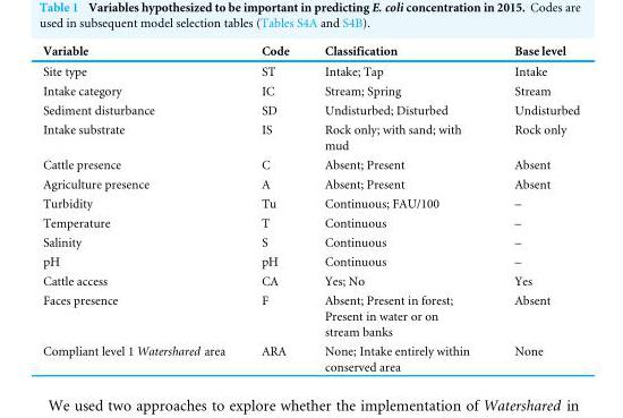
<table><thead><tr><td>Variable</td><td>Code</td><td>Classification</td><td>Base level</td></tr></thead><tbody><tr><td>Site type</td><td>ST</td><td>Intake; Tap</td><td>Intake</td></tr><tr><td>Intake category</td><td>IC</td><td>Stream; Spring</td><td>Stream</td></tr><tr><td>Sediment disturbance</td><td>SD</td><td>Undisturbed; Disturbed</td><td>Undisturbed</td></tr><tr><td>Intake substrate</td><td>IS</td><td>Rock only; with sand; with mud</td><td>Rock only</td></tr><tr><td>Cattle presence</td><td>C</td><td>Absent; Present</td><td>Absent</td></tr><tr><td>Agriculture presence</td><td>A</td><td>Absent; Present</td><td>Absent</td></tr><tr><td>Turbidity</td><td>Tu</td><td>Continuous; FAU/100</td><td>–</td></tr><tr><td>Temperature</td><td>T</td><td>Continuous</td><td>–</td></tr><tr><td>Salinity</td><td>S</td><td>Continuous</td><td>–</td></tr><tr><td>pH</td><td>pH</td><td>Continuous</td><td>–</td></tr><tr><td>Cattle access</td><td>CA</td><td>Yes; No</td><td>Yes</td></tr><tr><td>Faces presence</td><td>F</td><td>Absent; Present in forest; Present in water or on stream banks</td><td>Absent</td></tr><tr><td>Compliant level 1 Watershared area</td><td>ARA</td><td>None; Intake entirely within conserved area</td><td>None</td></tr></tbody></table>